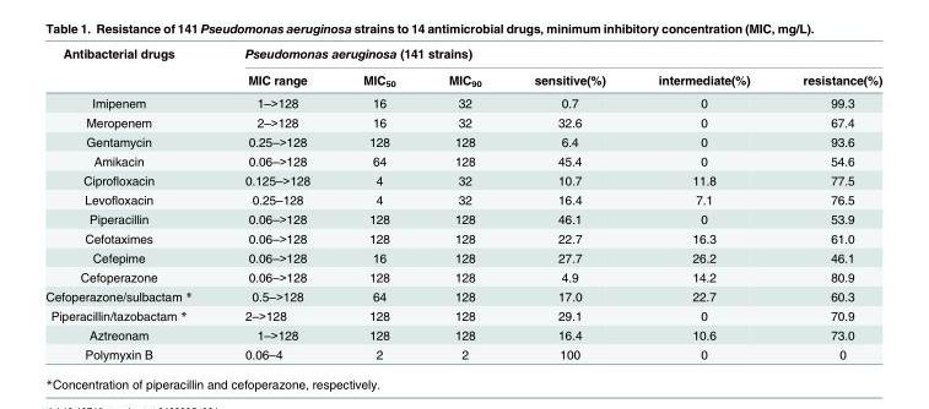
<table><thead><tr><td rowspan="2">Antibacterial drugs</td><td colspan="6">Pseudomonas aeruginosa (141 strains)</td></tr><tr><td>MIC range</td><td>MIC<sub>50</sub></td><td>MIC<sub>90</sub></td><td>sensitive(%)</td><td>intermediate(%)</td><td>resistance(%)</td></tr></thead><tbody><tr><td>Imipenem</td><td>1–&gt;128</td><td>16</td><td>32</td><td>0.7</td><td>0</td><td>99.3</td></tr><tr><td>Meropenem</td><td>2–&gt;128</td><td>16</td><td>32</td><td>32.6</td><td>0</td><td>67.4</td></tr><tr><td>Gentamycin</td><td>0.25–&gt;128</td><td>128</td><td>128</td><td>6.4</td><td>0</td><td>93.6</td></tr><tr><td>Amikacin</td><td>0.06–&gt;128</td><td>64</td><td>128</td><td>45.4</td><td>0</td><td>54.6</td></tr><tr><td>Ciprofloxacin</td><td>0.125–&gt;128</td><td>4</td><td>32</td><td>10.7</td><td>11.8</td><td>77.5</td></tr><tr><td>Levofloxacin</td><td>0.25–128</td><td>4</td><td>32</td><td>16.4</td><td>7.1</td><td>76.5</td></tr><tr><td>Piperacillin</td><td>0.06–&gt;128</td><td>128</td><td>128</td><td>46.1</td><td>0</td><td>53.9</td></tr><tr><td>Cefotaximes</td><td>0.06–&gt;128</td><td>128</td><td>128</td><td>22.7</td><td>16.3</td><td>61.0</td></tr><tr><td>Cefepime</td><td>0.06–&gt;128</td><td>16</td><td>128</td><td>27.7</td><td>26.2</td><td>46.1</td></tr><tr><td>Cefoperazone</td><td>0.06–&gt;128</td><td>128</td><td>128</td><td>4.9</td><td>14.2</td><td>80.9</td></tr><tr><td>Cefoperazone/sulbactam *</td><td>0.5–&gt;128</td><td>64</td><td>128</td><td>17.0</td><td>22.7</td><td>60.3</td></tr><tr><td>Piperacillin/tazobactam *</td><td>2–&gt;128</td><td>128</td><td>128</td><td>29.1</td><td>0</td><td>70.9</td></tr><tr><td>Aztreonam</td><td>1–&gt;128</td><td>128</td><td>128</td><td>16.4</td><td>10.6</td><td>73.0</td></tr><tr><td>Polymyxin B</td><td>0.06–4</td><td>2</td><td>2</td><td>100</td><td>0</td><td>0</td></tr></tbody></table>